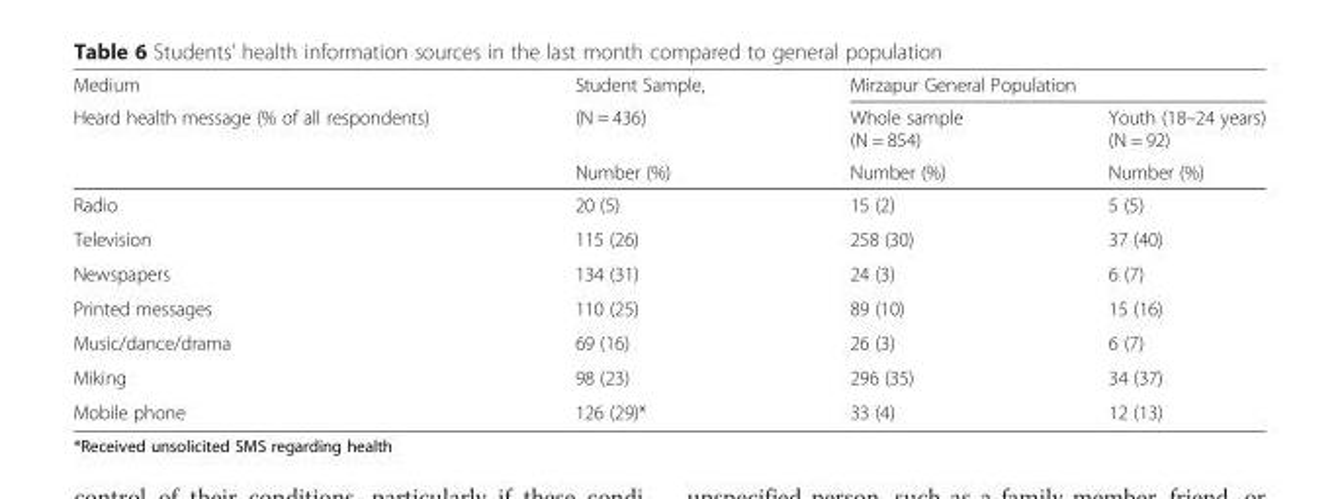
<table><thead><tr><td rowspan="3">Medium Heard health message (% of all respondents)</td><td rowspan="3">Student Sample, (N = 436) Number (%)</td><td colspan="2">Mirzapur General Population</td></tr><tr><td rowspan="2">Whole sample (N = 854) Number (%)</td><td rowspan="2">Youth (18–24 years) (N = 92) Number (%)</td></tr><tr></tr></thead><tbody><tr><td>Radio</td><td>20 (5)</td><td>15 (2)</td><td>5 (5)</td></tr><tr><td>Television</td><td>115 (26)</td><td>258 (30)</td><td>37 (40)</td></tr><tr><td>Newspapers</td><td>134 (31)</td><td>24 (3)</td><td>6 (7)</td></tr><tr><td>Printed messages</td><td>110 (25)</td><td>89 (10)</td><td>15 (16)</td></tr><tr><td>Music/dance/drama</td><td>69 (16)</td><td>26 (3)</td><td>6 (7)</td></tr><tr><td>Miking</td><td>98 (23)</td><td>296 (35)</td><td>34 (37)</td></tr><tr><td>Mobile phone</td><td>126 (29)*</td><td>33 (4)</td><td>12 (13)</td></tr></tbody></table>